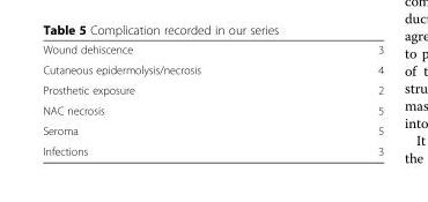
<table><tbody><tr><td>Wound dehiscence</td><td>3</td></tr><tr><td>Cutaneous epidermolysis/necrosis</td><td>4</td></tr><tr><td>Prosthetic exposure</td><td>2</td></tr><tr><td>NAC necrosis</td><td>5</td></tr><tr><td>Seroma</td><td>5</td></tr><tr><td>Infections</td><td>3</td></tr></tbody></table>